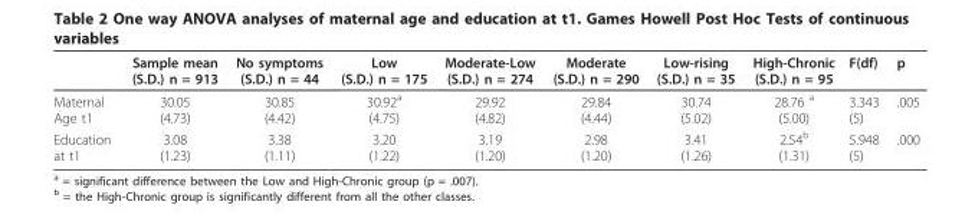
<table><thead><tr><td></td><td>Sample mean (S.D.) n = 913</td><td>No symptoms (S.D.) n = 44</td><td>Low (S.D.) n = 175</td><td>Moderate-Low (S.D.) n = 274</td><td>Moderate (S.D.) n = 290</td><td>Low-rising (S.D.) n = 35</td><td>High-Chronic (S.D.) n = 95</td><td>F(df)</td><td>p</td></tr></thead><tbody><tr><td>Maternal Age t1</td><td>30.05 (4.73)</td><td>30.85 (4.42)</td><td>30.92<sup>a</sup> (4.75)</td><td>29.92 (4.82)</td><td>29.84 (4.44)</td><td>30.74 (5.02)</td><td>28.76 <sup>a</sup> (5.00)</td><td>3.343 (5)</td><td>.005</td></tr><tr><td>Education at t1</td><td>3.08 (1.23)</td><td>3.38 (1.11)</td><td>3.20 (1.22)</td><td>3.19 (1.20)</td><td>2.98 (1.20)</td><td>3.41 (1.26)</td><td>2.54<sup>b</sup> (1.31)</td><td>5.948 (5)</td><td>.000</td></tr></tbody></table>